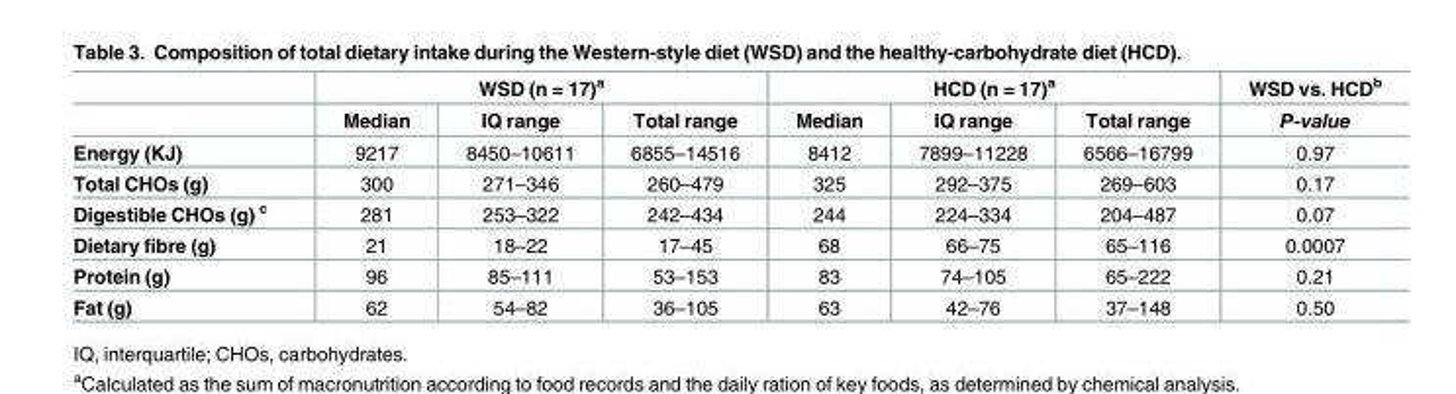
<table><thead><tr><td rowspan="2"></td><td colspan="3">WSD (n = 17)<sup>a</sup></td><td colspan="3">HCD (n = 17)<sup>a</sup></td><td rowspan="2">WSD vs. HCD<sup>b</sup> P-value</td></tr><tr><td>Median</td><td>IQ range</td><td>Total range</td><td>Median</td><td>IQ range</td><td>Total range</td></tr></thead><tbody><tr><td>Energy (KJ)</td><td>9217</td><td>8450–10611</td><td>6855–14516</td><td>8412</td><td>7899–11228</td><td>6566–16799</td><td>0.97</td></tr><tr><td>Total CHOs (g)</td><td>300</td><td>271–346</td><td>260–479</td><td>325</td><td>292–375</td><td>269–603</td><td>0.17</td></tr><tr><td>Digestible CHOs (g) <sup>c</sup></td><td>281</td><td>253–322</td><td>242–434</td><td>244</td><td>224–334</td><td>204–487</td><td>0.07</td></tr><tr><td>Dietary fibre (g)</td><td>21</td><td>18–22</td><td>17–45</td><td>68</td><td>66–75</td><td>65–116</td><td>0.0007</td></tr><tr><td>Protein (g)</td><td>96</td><td>85–111</td><td>53–153</td><td>83</td><td>74–105</td><td>65–222</td><td>0.21</td></tr><tr><td>Fat (g)</td><td>62</td><td>54–82</td><td>36–105</td><td>63</td><td>42–76</td><td>37–148</td><td>0.50</td></tr></tbody></table>